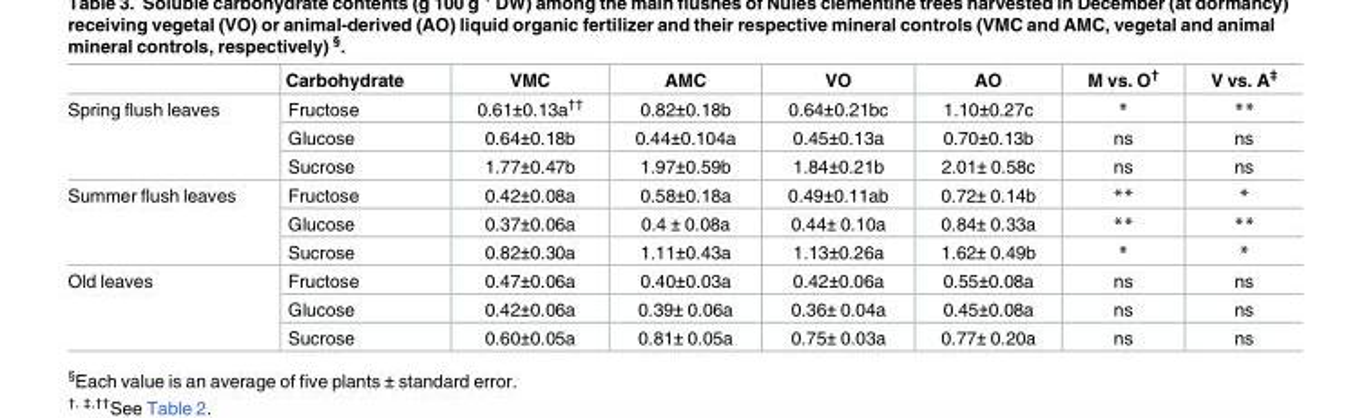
<table><thead><tr><td></td><td>Carbohydrate</td><td>VMC</td><td>AMC</td><td>VO</td><td>AO</td><td>M vs. O<sup>†</sup></td><td>V vs. A<sup>‡</sup></td></tr></thead><tbody><tr><td rowspan="3">Spring flush leaves</td><td>Fructose</td><td>0.61±0.13a<sup>††</sup></td><td>0.82±0.18b</td><td>0.64±0.21bc</td><td>1.10±0.27c</td><td>*</td><td>**</td></tr><tr><td>Glucose</td><td>0.64±0.18b</td><td>0.44±0.104a</td><td>0.45±0.13a</td><td>0.70±0.13b</td><td>ns</td><td>ns</td></tr><tr><td>Sucrose</td><td>1.77±0.47b</td><td>1.97±0.59b</td><td>1.84±0.21b</td><td>2.01± 0.58c</td><td>ns</td><td>ns</td></tr><tr><td rowspan="3">Summer flush leaves</td><td>Fructose</td><td>0.42±0.08a</td><td>0.58±0.18a</td><td>0.49±0.11ab</td><td>0.72± 0.14b</td><td>**</td><td>*</td></tr><tr><td>Glucose</td><td>0.37±0.06a</td><td>0.4 ± 0.08a</td><td>0.44± 0.10a</td><td>0.84± 0.33a</td><td>**</td><td>**</td></tr><tr><td>Sucrose</td><td>0.82±0.30a</td><td>1.11±0.43a</td><td>1.13±0.26a</td><td>1.62± 0.49b</td><td>*</td><td>*</td></tr><tr><td rowspan="3">Old leaves</td><td>Fructose</td><td>0.47±0.06a</td><td>0.40±0.03a</td><td>0.42±0.06a</td><td>0.55±0.08a</td><td>ns</td><td>ns</td></tr><tr><td>Glucose</td><td>0.42±0.06a</td><td>0.39± 0.06a</td><td>0.36± 0.04a</td><td>0.45±0.08a</td><td>ns</td><td>ns</td></tr><tr><td>Sucrose</td><td>0.60±0.05a</td><td>0.81± 0.05a</td><td>0.75± 0.03a</td><td>0.77± 0.20a</td><td>ns</td><td>ns</td></tr></tbody></table>